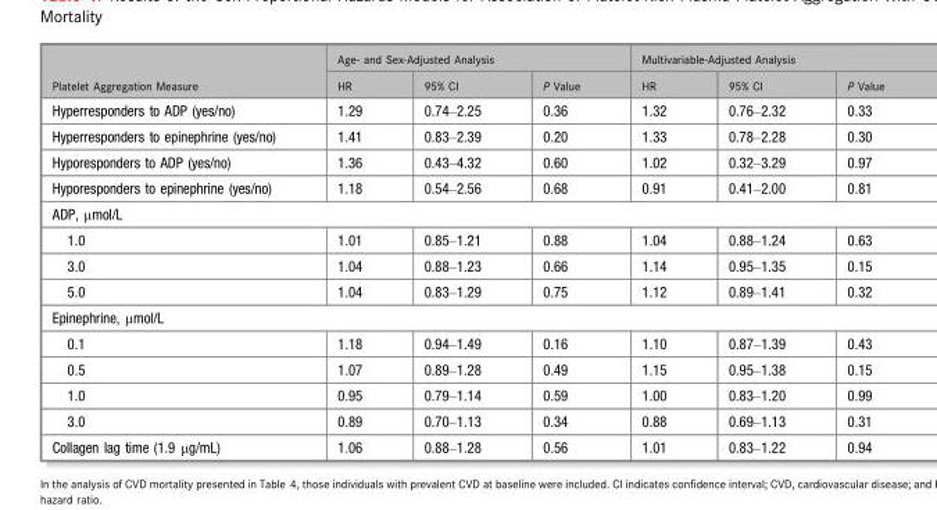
<table><thead><tr><td rowspan="2">Platelet Aggregation Measure</td><td colspan="3">Age- and Sex-Adjusted Analysis</td><td colspan="3">Multivariable-Adjusted Analysis</td></tr><tr><td>HR</td><td>95% CI</td><td>P Value</td><td>HR</td><td>95% CI</td><td>P Value</td></tr></thead><tbody><tr><td>Hyperresponders to ADP (yes/no)</td><td>1.29</td><td>0.74–2.25</td><td>0.36</td><td>1.32</td><td>0.76–2.32</td><td>0.33</td></tr><tr><td>Hyperresponders to epinephrine (yes/no)</td><td>1.41</td><td>0.83–2.39</td><td>0.20</td><td>1.33</td><td>0.78–2.28</td><td>0.30</td></tr><tr><td>Hyporesponders to ADP (yes/no)</td><td>1.36</td><td>0.43–4.32</td><td>0.60</td><td>1.02</td><td>0.32–3.29</td><td>0.97</td></tr><tr><td>Hyporesponders to epinephrine (yes/no)</td><td>1.18</td><td>0.54–2.56</td><td>0.68</td><td>0.91</td><td>0.41–2.00</td><td>0.81</td></tr><tr><td colspan="7">ADP, μmol/L</td></tr><tr><td>1.0</td><td>1.01</td><td>0.85–1.21</td><td>0.88</td><td>1.04</td><td>0.88–1.24</td><td>0.63</td></tr><tr><td>3.0</td><td>1.04</td><td>0.88–1.23</td><td>0.66</td><td>1.14</td><td>0.95–1.35</td><td>0.15</td></tr><tr><td>5.0</td><td>1.04</td><td>0.83–1.29</td><td>0.75</td><td>1.12</td><td>0.89–1.41</td><td>0.32</td></tr><tr><td colspan="7">Epinephrine, μmol/L</td></tr><tr><td>0.1</td><td>1.18</td><td>0.94–1.49</td><td>0.16</td><td>1.10</td><td>0.87–1.39</td><td>0.43</td></tr><tr><td>0.5</td><td>1.07</td><td>0.89–1.28</td><td>0.49</td><td>1.15</td><td>0.95–1.38</td><td>0.15</td></tr><tr><td>1.0</td><td>0.95</td><td>0.79–1.14</td><td>0.59</td><td>1.00</td><td>0.83–1.20</td><td>0.99</td></tr><tr><td>3.0</td><td>0.89</td><td>0.70–1.13</td><td>0.34</td><td>0.88</td><td>0.69–1.13</td><td>0.31</td></tr><tr><td>Collagen lag time (1.9 μg/mL)</td><td>1.06</td><td>0.88–1.28</td><td>0.56</td><td>1.01</td><td>0.83–1.22</td><td>0.94</td></tr></tbody></table>